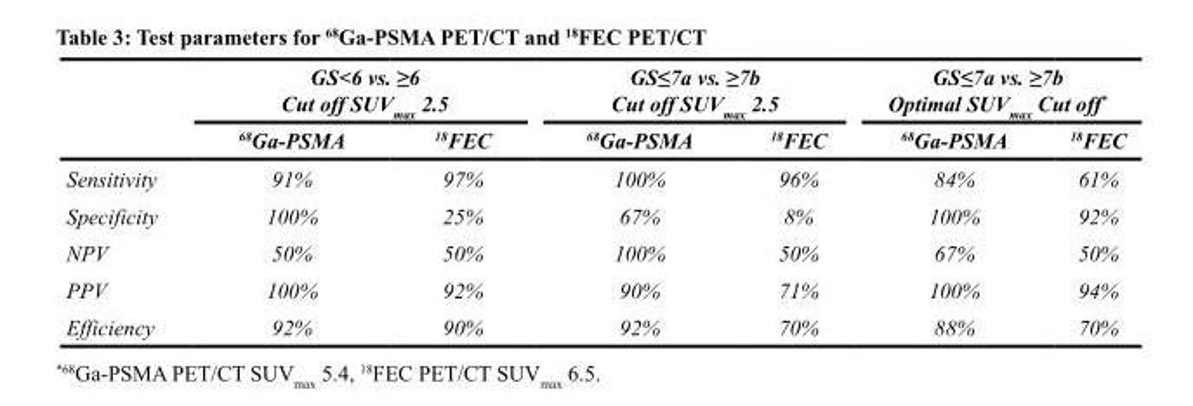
<table><thead><tr><td rowspan="2"></td><td colspan="2">GS&lt;6 vs. ≥6 Cut off SUV<sub>max</sub> 2.5</td><td colspan="2">GS≤7a vs. ≥7b Cut off SUV<sub>max</sub> 2.5</td><td colspan="2">GS≤7a vs. ≥7b Optimal SUV<sub>max</sub> Cut off*</td></tr><tr><td><sup>68</sup>Ga-PSMA</td><td><sup>18</sup>FEC</td><td><sup>68</sup>Ga-PSMA</td><td><sup>18</sup>FEC</td><td><sup>68</sup>Ga-PSMA</td><td><sup>18</sup>FEC</td></tr></thead><tbody><tr><td>Sensitivity</td><td>91%</td><td>97%</td><td>100%</td><td>96%</td><td>84%</td><td>61%</td></tr><tr><td>Specificity</td><td>100%</td><td>25%</td><td>67%</td><td>8%</td><td>100%</td><td>92%</td></tr><tr><td>NPV</td><td>50%</td><td>50%</td><td>100%</td><td>50%</td><td>67%</td><td>50%</td></tr><tr><td>PPV</td><td>100%</td><td>92%</td><td>90%</td><td>71%</td><td>100%</td><td>94%</td></tr><tr><td>Efficiency</td><td>92%</td><td>90%</td><td>92%</td><td>70%</td><td>88%</td><td>70%</td></tr></tbody></table>